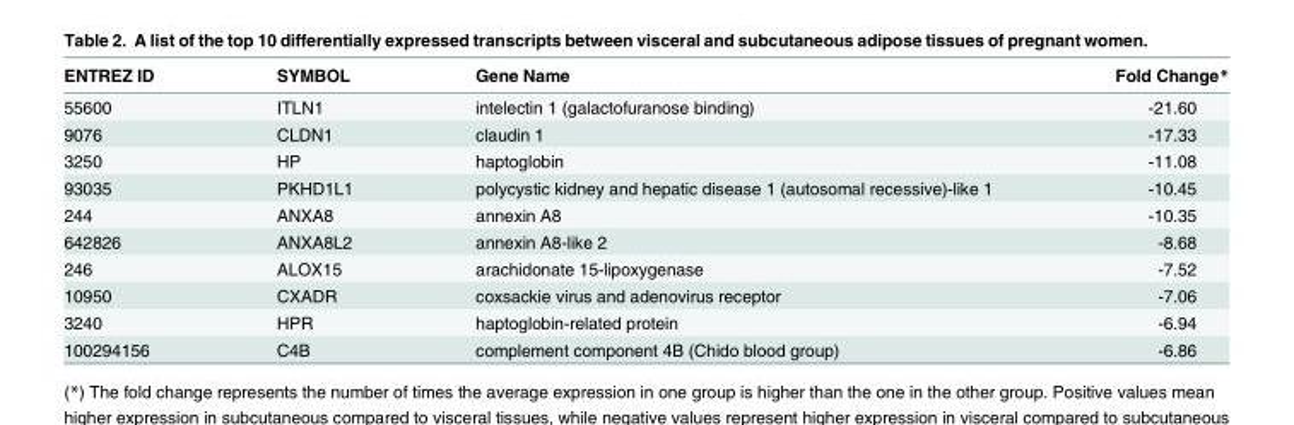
<table><thead><tr><td>ENTREZ ID</td><td>SYMBOL</td><td>Gene Name</td><td>Fold Change*</td></tr></thead><tbody><tr><td>55600</td><td>ITLN1</td><td>intelectin 1 (galactofuranose binding)</td><td>-21.60</td></tr><tr><td>9076</td><td>CLDN1</td><td>claudin 1</td><td>-17.33</td></tr><tr><td>3250</td><td>HP</td><td>haptoglobin</td><td>-11.08</td></tr><tr><td>93035</td><td>PKHD1L1</td><td>polycystic kidney and hepatic disease 1 (autosomal recessive)-like 1</td><td>-10.45</td></tr><tr><td>244</td><td>ANXA8</td><td>annexin A8</td><td>-10.35</td></tr><tr><td>642826</td><td>ANXA8L2</td><td>annexin A8-like 2</td><td>-8.68</td></tr><tr><td>246</td><td>ALOX15</td><td>arachidonate 15-lipoxygenase</td><td>-7.52</td></tr><tr><td>10950</td><td>CXADR</td><td>coxsackie virus and adenovirus receptor</td><td>-7.06</td></tr><tr><td>3240</td><td>HPR</td><td>haptoglobin-related protein</td><td>-6.94</td></tr><tr><td>100294156</td><td>C4B</td><td>complement component 4B (Chido blood group)</td><td>-6.86</td></tr></tbody></table>